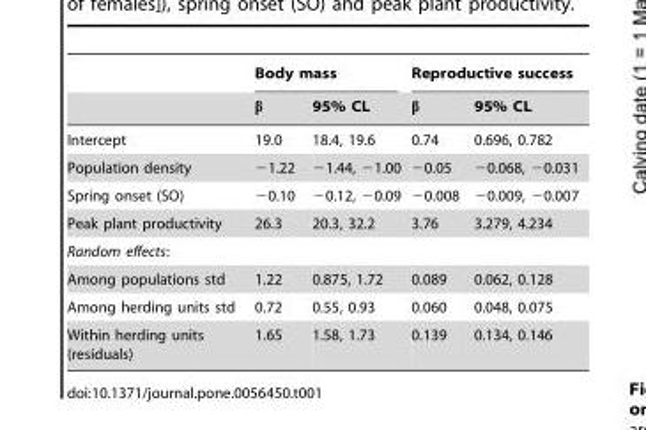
<table><thead><tr><td rowspan="2"></td><td colspan="2">Body mass</td><td colspan="2">Reproductive success</td></tr><tr><td>β</td><td>95% CL</td><td>β</td><td>95% CL</td></tr></thead><tbody><tr><td>Intercept</td><td>19.0</td><td>18.4, 19.6</td><td>0.74</td><td>0.696, 0.782</td></tr><tr><td>Population density</td><td>−1.22</td><td>−1.44, −1.00</td><td>−0.05</td><td>−0.068, −0.031</td></tr><tr><td>Spring onset (SO)</td><td>−0.10</td><td>−0.12, −0.09</td><td>−0.008</td><td>−0.009, −0.007</td></tr><tr><td>Peak plant productivity</td><td>26.3</td><td>20.3, 32.2</td><td>3.76</td><td>3.279, 4.234</td></tr><tr><td colspan="5">Random effects:</td></tr><tr><td>Among populations std</td><td>1.22</td><td>0.875, 1.72</td><td>0.089</td><td>0.062, 0.128</td></tr><tr><td>Among herding units std</td><td>0.72</td><td>0.55, 0.93</td><td>0.060</td><td>0.048, 0.075</td></tr><tr><td>Within herding units (residuals)</td><td>1.65</td><td>1.58, 1.73</td><td>0.139</td><td>0.134, 0.146</td></tr></tbody></table>